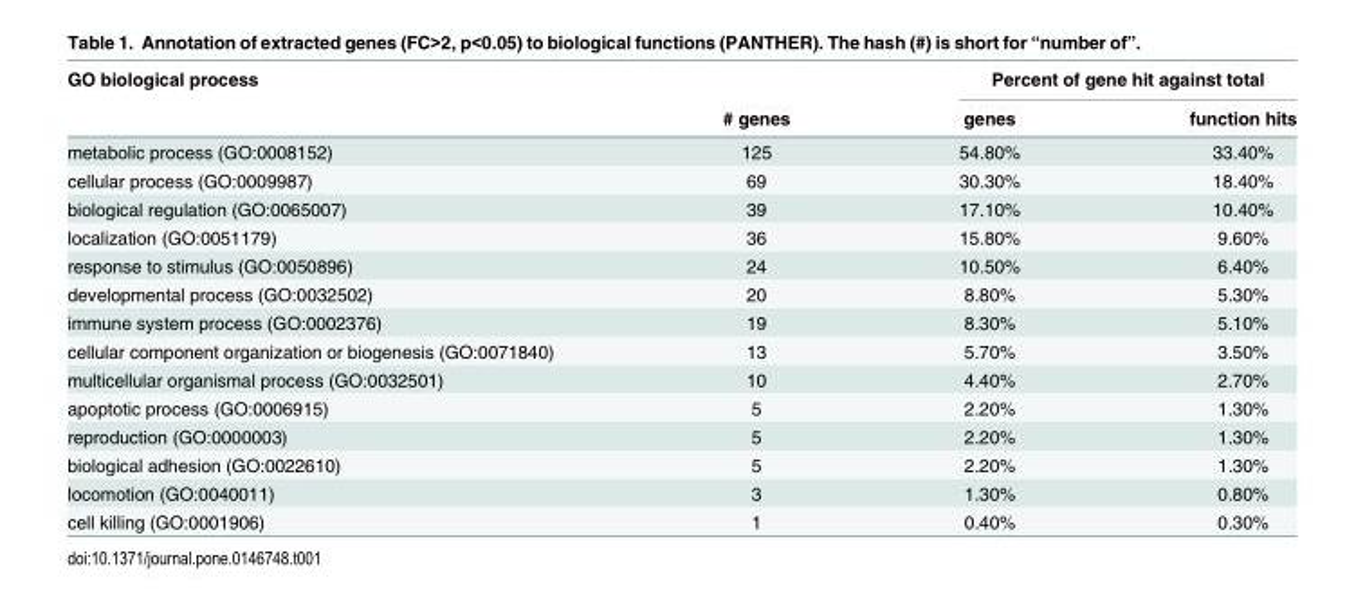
<table><thead><tr><td rowspan="2">GO biological process</td><td rowspan="2"># genes</td><td colspan="2">Percent of gene hit against total</td></tr><tr><td>genes</td><td>function hits</td></tr></thead><tbody><tr><td>metabolic process (GO:0008152)</td><td>125</td><td>54.80%</td><td>33.40%</td></tr><tr><td>cellular process (GO:0009987)</td><td>69</td><td>30.30%</td><td>18.40%</td></tr><tr><td>biological regulation (GO:0065007)</td><td>39</td><td>17.10%</td><td>10.40%</td></tr><tr><td>localization (GO:0051179)</td><td>36</td><td>15.80%</td><td>9.60%</td></tr><tr><td>response to stimulus (GO:0050896)</td><td>24</td><td>10.50%</td><td>6.40%</td></tr><tr><td>developmental process (GO:0032502)</td><td>20</td><td>8.80%</td><td>5.30%</td></tr><tr><td>immune system process (GO:0002376)</td><td>19</td><td>8.30%</td><td>5.10%</td></tr><tr><td>cellular component organization or biogenesis (GO:0071840)</td><td>13</td><td>5.70%</td><td>3.50%</td></tr><tr><td>multicellular organismal process (GO:0032501)</td><td>10</td><td>4.40%</td><td>2.70%</td></tr><tr><td>apoptotic process (GO:0006915)</td><td>5</td><td>2.20%</td><td>1.30%</td></tr><tr><td>reproduction (GO:0000003)</td><td>5</td><td>2.20%</td><td>1.30%</td></tr><tr><td>biological adhesion (GO:0022610)</td><td>5</td><td>2.20%</td><td>1.30%</td></tr><tr><td>locomotion (GO:0040011)</td><td>3</td><td>1.30%</td><td>0.80%</td></tr><tr><td>cell killing (GO:0001906)</td><td>1</td><td>0.40%</td><td>0.30%</td></tr></tbody></table>